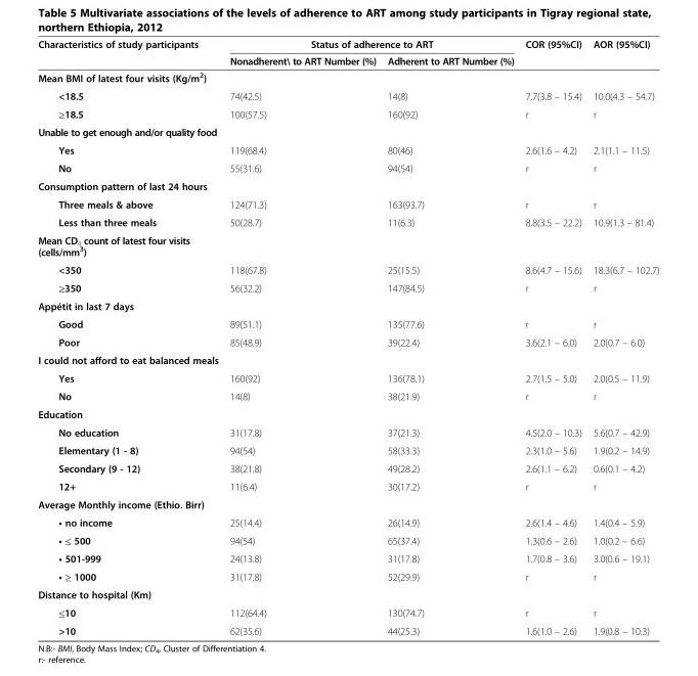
<table><thead><tr><td rowspan="2">Characteristics of study participants</td><td colspan="2">Status of adherence to ART</td><td rowspan="2">COR (95%CI)</td><td rowspan="2">AOR (95%CI)</td></tr><tr><td>Nonadherent\ to ART Number (%)</td><td>Adherent to ART Number (%)</td></tr></thead><tbody><tr><td colspan="5">Mean BMI of latest four visits (Kg/m<sup>2</sup>)</td></tr><tr><td>&lt;18.5</td><td>74(42.5)</td><td>14(8)</td><td>7.7(3.8 – 15.4)</td><td>10.0(4.3 – 54.7)</td></tr><tr><td>≥18.5</td><td>100(57.5)</td><td>160(92)</td><td>r</td><td>r</td></tr><tr><td colspan="5">Unable to get enough and/or quality food</td></tr><tr><td>Yes</td><td>119(68.4)</td><td>80(46)</td><td>2.6(1.6 – 4.2)</td><td>2.1(1.1 – 11.5)</td></tr><tr><td>No</td><td>55(31.6)</td><td>94(54)</td><td>r</td><td>r</td></tr><tr><td colspan="5">Consumption pattern of last 24 hours</td></tr><tr><td>Three meals &amp; above</td><td>124(71.3)</td><td>163(93.7)</td><td>r</td><td>r</td></tr><tr><td>Less than three meals</td><td>50(28.7)</td><td>11(6.3)</td><td>8.8(3.5 – 22.2)</td><td>10.9(1.3 – 81.4)</td></tr><tr><td colspan="5">Mean CD<sub>4</sub> count of latest four visits (cells/mm<sup>3</sup>)</td></tr><tr><td>&lt;350</td><td>118(67.8)</td><td>25(15.5)</td><td>8.6(4.7 – 15.6)</td><td>18.3(6.7 – 102.7)</td></tr><tr><td>≥350</td><td>56(32.2)</td><td>147(84.5)</td><td>r</td><td>r</td></tr><tr><td colspan="5">Appétit in last 7 days</td></tr><tr><td>Good</td><td>89(51.1)</td><td>135(77.6)</td><td>r</td><td>r</td></tr><tr><td>Poor</td><td>85(48.9)</td><td>39(22.4)</td><td>3.6(2.1 – 6.0)</td><td>2.0(0.7 – 6.0)</td></tr><tr><td colspan="5">I could not afford to eat balanced meals</td></tr><tr><td>Yes</td><td>160(92)</td><td>136(78.1)</td><td>2.7(1.5 – 5.0)</td><td>2.0(0.5 – 11.9)</td></tr><tr><td>No</td><td>14(8)</td><td>38(21.9)</td><td>r</td><td>r</td></tr><tr><td colspan="5">Education</td></tr><tr><td>No education</td><td>31(17.8)</td><td>37(21.3)</td><td>4.5(2.0 – 10.3)</td><td>5.6(0.7 – 42.9)</td></tr><tr><td>Elementary (1 - 8)</td><td>94(54)</td><td>58(33.3)</td><td>2.3(1.0 – 5.6)</td><td>1.9(0.2 – 14.9)</td></tr><tr><td>Secondary (9 - 12)</td><td>38(21.8)</td><td>49(28.2)</td><td>2.6(1.1 – 6.2)</td><td>0.6(0.1 – 4.2)</td></tr><tr><td>12+</td><td>11(6.4)</td><td>30(17.2)</td><td>r</td><td>r</td></tr><tr><td colspan="5">Average Monthly income (Ethio. Birr)</td></tr><tr><td>• no income</td><td>25(14.4)</td><td>26(14.9)</td><td>2.6(1.4 – 4.6)</td><td>1.4(0.4 – 5.9)</td></tr><tr><td>• ≤ 500</td><td>94(54)</td><td>65(37.4)</td><td>1.3(0.6 – 2.6)</td><td>1.0(0.2 – 6.6)</td></tr><tr><td>• 501-999</td><td>24(13.8)</td><td>31(17.8)</td><td>1.7(0.8 – 3.6)</td><td>3.0(0.6 – 19.1)</td></tr><tr><td>• ≥ 1000</td><td>31(17.8)</td><td>52(29.9)</td><td>r</td><td>r</td></tr><tr><td colspan="5">Distance to hospital (Km)</td></tr><tr><td>≤10</td><td>112(64.4)</td><td>130(74.7)</td><td>r</td><td>r</td></tr><tr><td>&gt;10</td><td>62(35.6)</td><td>44(25.3)</td><td>1.6(1.0 – 2.6)</td><td>1.9(0.8 – 10.3)</td></tr></tbody></table>